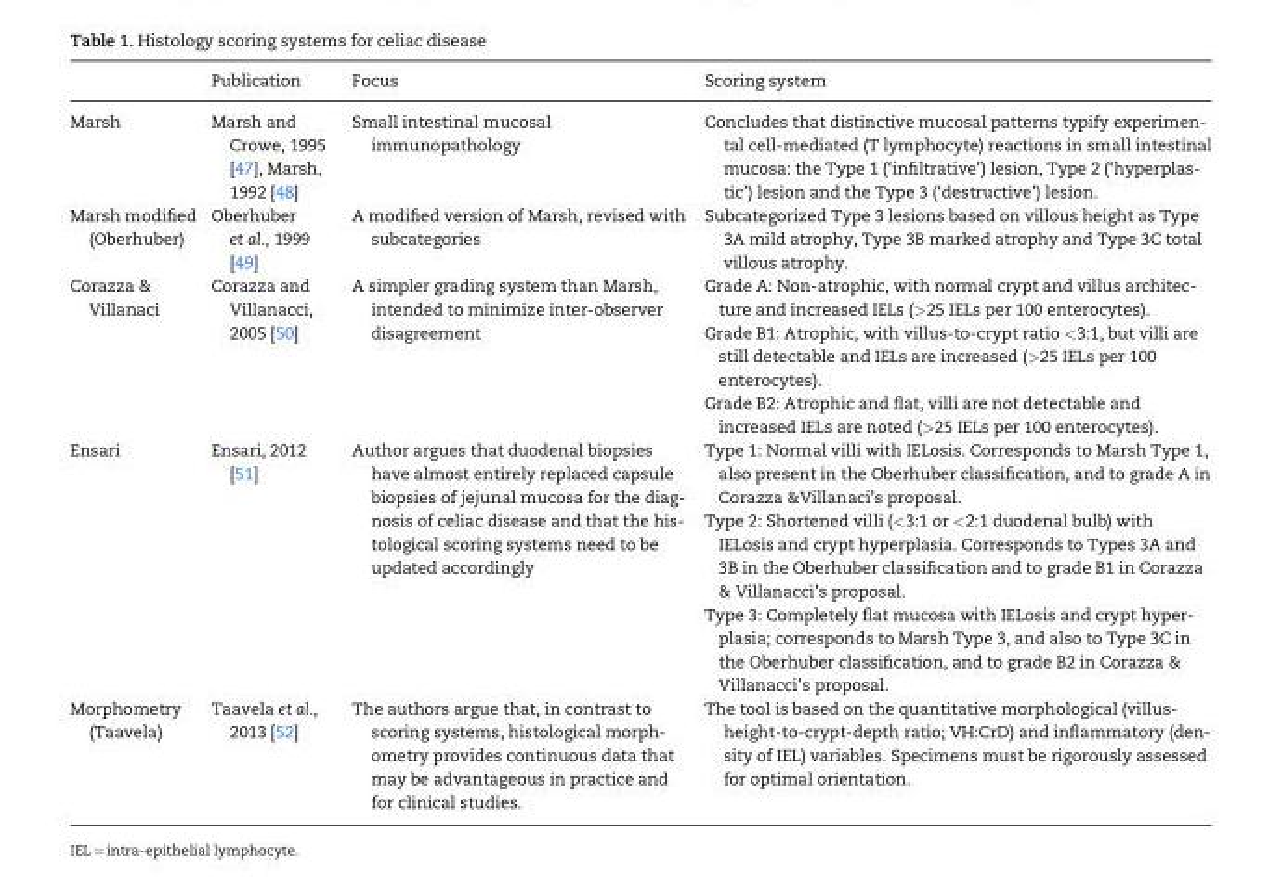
<table><thead><tr><td></td><td>Publication</td><td>Focus</td><td>Scoring system</td></tr></thead><tbody><tr><td>Marsh</td><td>Marsh and Crowe, 1995 [47], Marsh, 1992 [48]</td><td>Small intestinal mucosal immunopathology</td><td>Concludes that distinctive mucosal patterns typify experimen- tal cell-mediated (T lymphocyte) reactions in small intestinal mucosa: the Type 1 (‘infiltrative’) lesion, Type 2 (‘hyperplas- tic’) lesion and the Type 3 (‘destructive’) lesion.</td></tr><tr><td>Marsh modified (Oberhuber)</td><td>Oberhuber et al., 1999 [49]</td><td>A modified version of Marsh, revised with subcategories</td><td>Subcategorized Type 3 lesions based on villous height as Type 3A mild atrophy, Type 3B marked atrophy and Type 3C total villous atrophy.</td></tr><tr><td>Corazza &amp; Villanaci</td><td>Corazza and Villanacci, 2005 [50]</td><td>A simpler grading system than Marsh, intended to minimize inter-observer disagreement</td><td>Grade A: Non-atrophic, with normal crypt and villus architec- ture and increased IELs (&gt;25 IELs per 100 enterocytes). Grade B1: Atrophic, with villus-to-crypt ratio &lt;3:1, but villi are still detectable and IELs are increased (&gt;25 IELs per 100 enterocytes). Grade B2: Atrophic and flat, villi are not detectable and increased IELs are noted (&gt;25 IELs per 100 enterocytes).</td></tr><tr><td>Ensari</td><td>Ensari, 2012 [51]</td><td>Author argues that duodenal biopsies have almost entirely replaced capsule biopsies of jejunal mucosa for the diag- nosis of celiac disease and that the his- tological scoring systems need to be updated accordingly</td><td>Type 1: Normal villi with IELosis. Corresponds to Marsh Type 1, also present in the Oberhuber classification, and to grade A in Corazza &amp;Villanaci’s proposal. Type 2: Shortened villi (&lt;3:1 or &lt;2:1 duodenal bulb) with IELosis and crypt hyperplasia. Corresponds to Types 3A and 3B in the Oberhuber classification and to grade B1 in Corazza &amp; Villanacci’s proposal. Type 3: Completely flat mucosa with IELosis and crypt hyper- plasia; corresponds to Marsh Type 3, and also to Type 3C in the Oberhuber classification, and to grade B2 in Corazza &amp; Villanacci’s proposal.</td></tr><tr><td>Morphometry (Taavela)</td><td>Taavela et al., 2013 [52]</td><td>The authors argue that, in contrast to scoring systems, histological morph- ometry provides continuous data that may be advantageous in practice and for clinical studies.</td><td>The tool is based on the quantitative morphological (villus- height-to-crypt-depth ratio; VH:CrD) and inflammatory (den- sity of IEL) variables. Specimens must be rigorously assessed for optimal orientation.</td></tr></tbody></table>